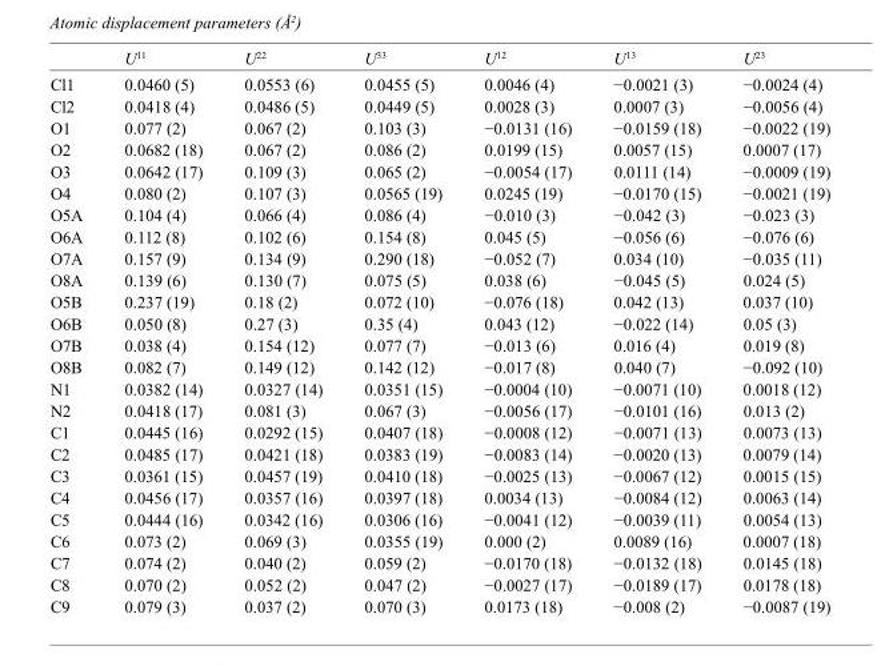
<table><thead><tr><td></td><td>U<sup>11</sup></td><td>U<sup>22</sup></td><td>U<sup>33</sup></td><td>U<sup>12</sup></td><td>U<sup>13</sup></td><td>U<sup>23</sup></td></tr></thead><tbody><tr><td>Cl1</td><td>0.0460 (5)</td><td>0.0553 (6)</td><td>0.0455 (5)</td><td>0.0046 (4)</td><td>−0.0021 (3)</td><td>−0.0024 (4)</td></tr><tr><td>Cl2</td><td>0.0418 (4)</td><td>0.0486 (5)</td><td>0.0449 (5)</td><td>0.0028 (3)</td><td>0.0007 (3)</td><td>−0.0056 (4)</td></tr><tr><td>O1</td><td>0.077 (2)</td><td>0.067 (2)</td><td>0.103 (3)</td><td>−0.0131 (16)</td><td>−0.0159 (18)</td><td>−0.0022 (19)</td></tr><tr><td>O2</td><td>0.0682 (18)</td><td>0.067 (2)</td><td>0.086 (2)</td><td>0.0199 (15)</td><td>0.0057 (15)</td><td>0.0007 (17)</td></tr><tr><td>O3</td><td>0.0642 (17)</td><td>0.109 (3)</td><td>0.065 (2)</td><td>−0.0054 (17)</td><td>0.0111 (14)</td><td>−0.0009 (19)</td></tr><tr><td>O4</td><td>0.080 (2)</td><td>0.107 (3)</td><td>0.0565 (19)</td><td>0.0245 (19)</td><td>−0.0170 (15)</td><td>−0.0021 (19)</td></tr><tr><td>O5A</td><td>0.104 (4)</td><td>0.066 (4)</td><td>0.086 (4)</td><td>−0.010 (3)</td><td>−0.042 (3)</td><td>−0.023 (3)</td></tr><tr><td>O6A</td><td>0.112 (8)</td><td>0.102 (6)</td><td>0.154 (8)</td><td>0.045 (5)</td><td>−0.056 (6)</td><td>−0.076 (6)</td></tr><tr><td>O7A</td><td>0.157 (9)</td><td>0.134 (9)</td><td>0.290 (18)</td><td>−0.052 (7)</td><td>0.034 (10)</td><td>−0.035 (11)</td></tr><tr><td>O8A</td><td>0.139 (6)</td><td>0.130 (7)</td><td>0.075 (5)</td><td>0.038 (6)</td><td>−0.045 (5)</td><td>0.024 (5)</td></tr><tr><td>O5B</td><td>0.237 (19)</td><td>0.18 (2)</td><td>0.072 (10)</td><td>−0.076 (18)</td><td>0.042 (13)</td><td>0.037 (10)</td></tr><tr><td>O6B</td><td>0.050 (8)</td><td>0.27 (3)</td><td>0.35 (4)</td><td>0.043 (12)</td><td>−0.022 (14)</td><td>0.05 (3)</td></tr><tr><td>O7B</td><td>0.038 (4)</td><td>0.154 (12)</td><td>0.077 (7)</td><td>−0.013 (6)</td><td>0.016 (4)</td><td>0.019 (8)</td></tr><tr><td>O8B</td><td>0.082 (7)</td><td>0.149 (12)</td><td>0.142 (12)</td><td>−0.017 (8)</td><td>0.040 (7)</td><td>−0.092 (10)</td></tr><tr><td>N1</td><td>0.0382 (14)</td><td>0.0327 (14)</td><td>0.0351 (15)</td><td>−0.0004 (10)</td><td>−0.0071 (10)</td><td>0.0018 (12)</td></tr><tr><td>N2</td><td>0.0418 (17)</td><td>0.081 (3)</td><td>0.067 (3)</td><td>−0.0056 (17)</td><td>−0.0101 (16)</td><td>0.013 (2)</td></tr><tr><td>C1</td><td>0.0445 (16)</td><td>0.0292 (15)</td><td>0.0407 (18)</td><td>−0.0008 (12)</td><td>−0.0071 (13)</td><td>0.0073 (13)</td></tr><tr><td>C2</td><td>0.0485 (17)</td><td>0.0421 (18)</td><td>0.0383 (19)</td><td>−0.0083 (14)</td><td>−0.0020 (13)</td><td>0.0079 (14)</td></tr><tr><td>C3</td><td>0.0361 (15)</td><td>0.0457 (19)</td><td>0.0410 (18)</td><td>−0.0025 (13)</td><td>−0.0067 (12)</td><td>0.0015 (15)</td></tr><tr><td>C4</td><td>0.0456 (17)</td><td>0.0357 (16)</td><td>0.0397 (18)</td><td>0.0034 (13)</td><td>−0.0084 (12)</td><td>0.0063 (14)</td></tr><tr><td>C5</td><td>0.0444 (16)</td><td>0.0342 (16)</td><td>0.0306 (16)</td><td>−0.0041 (12)</td><td>−0.0039 (11)</td><td>0.0054 (13)</td></tr><tr><td>C6</td><td>0.073 (2)</td><td>0.069 (3)</td><td>0.0355 (19)</td><td>0.000 (2)</td><td>0.0089 (16)</td><td>0.0007 (18)</td></tr><tr><td>C7</td><td>0.074 (2)</td><td>0.040 (2)</td><td>0.059 (2)</td><td>−0.0170 (18)</td><td>−0.0132 (18)</td><td>0.0145 (18)</td></tr><tr><td>C8</td><td>0.070 (2)</td><td>0.052 (2)</td><td>0.047 (2)</td><td>−0.0027 (17)</td><td>−0.0189 (17)</td><td>0.0178 (18)</td></tr><tr><td>C9</td><td>0.079 (3)</td><td>0.037 (2)</td><td>0.070 (3)</td><td>0.0173 (18)</td><td>−0.008 (2)</td><td>−0.0087 (19)</td></tr></tbody></table>